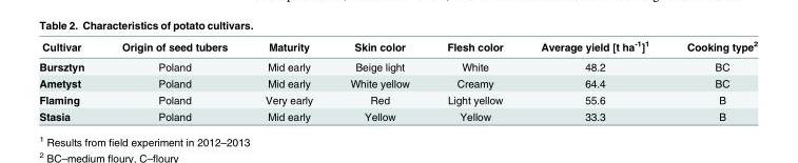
<table><thead><tr><td>Cultivar</td><td>Origin of seed tubers</td><td>Maturity</td><td>Skin color</td><td>Flesh color</td><td>Average yield [t ha<sup>-1</sup>]<sup>1</sup></td><td>Cooking type<sup>2</sup></td></tr></thead><tbody><tr><td>Bursztyn</td><td>Poland</td><td>Mid early</td><td>Beige light</td><td>White</td><td>48.2</td><td>BC</td></tr><tr><td>Ametyst</td><td>Poland</td><td>Mid early</td><td>White yellow</td><td>Creamy</td><td>64.4</td><td>BC</td></tr><tr><td>Flaming</td><td>Poland</td><td>Very early</td><td>Red</td><td>Light yellow</td><td>55.6</td><td>B</td></tr><tr><td>Stasia</td><td>Poland</td><td>Mid early</td><td>Yellow</td><td>Yellow</td><td>33.3</td><td>B</td></tr></tbody></table>